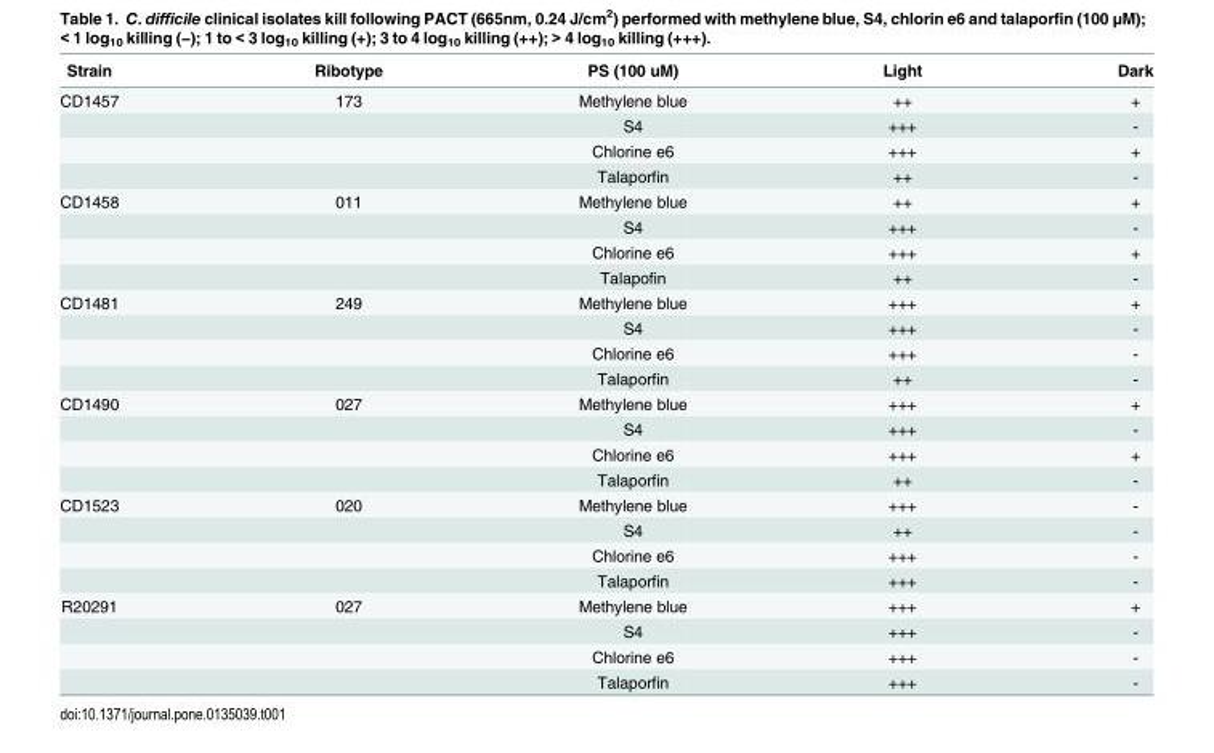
<table><thead><tr><td>Strain</td><td>Ribotype</td><td>PS (100 uM)</td><td>Light</td><td>Dark</td></tr></thead><tbody><tr><td rowspan="4">CD1457</td><td>173</td><td>Methylene blue</td><td>++</td><td>+</td></tr><tr><td></td><td>S4</td><td>+++</td><td>-</td></tr><tr><td></td><td>Chlorine e6</td><td>+++</td><td>+</td></tr><tr><td></td><td>Talaporfin</td><td>++</td><td>-</td></tr><tr><td rowspan="4">CD1458</td><td>011</td><td>Methylene blue</td><td>++</td><td>+</td></tr><tr><td></td><td>S4</td><td>+++</td><td>-</td></tr><tr><td></td><td>Chlorine e6</td><td>+++</td><td>+</td></tr><tr><td></td><td>Talapofin</td><td>++</td><td>-</td></tr><tr><td rowspan="4">CD1481</td><td>249</td><td>Methylene blue</td><td>+++</td><td>+</td></tr><tr><td></td><td>S4</td><td>+++</td><td>-</td></tr><tr><td></td><td>Chlorine e6</td><td>+++</td><td>-</td></tr><tr><td></td><td>Talaporfin</td><td>++</td><td>-</td></tr><tr><td rowspan="4">CD1490</td><td>027</td><td>Methylene blue</td><td>+++</td><td>+</td></tr><tr><td></td><td>S4</td><td>+++</td><td>-</td></tr><tr><td></td><td>Chlorine e6</td><td>+++</td><td>+</td></tr><tr><td></td><td>Talaporfin</td><td>++</td><td>-</td></tr><tr><td rowspan="4">CD1523</td><td>020</td><td>Methylene blue</td><td>+++</td><td>-</td></tr><tr><td></td><td>S4</td><td>++</td><td>-</td></tr><tr><td></td><td>Chlorine e6</td><td>+++</td><td>-</td></tr><tr><td></td><td>Talaporfin</td><td>+++</td><td>-</td></tr><tr><td rowspan="4">R20291</td><td>027</td><td>Methylene blue</td><td>+++</td><td>+</td></tr><tr><td></td><td>S4</td><td>+++</td><td>-</td></tr><tr><td></td><td>Chlorine e6</td><td>+++</td><td>-</td></tr><tr><td></td><td>Talaporfin</td><td>+++</td><td>-</td></tr></tbody></table>